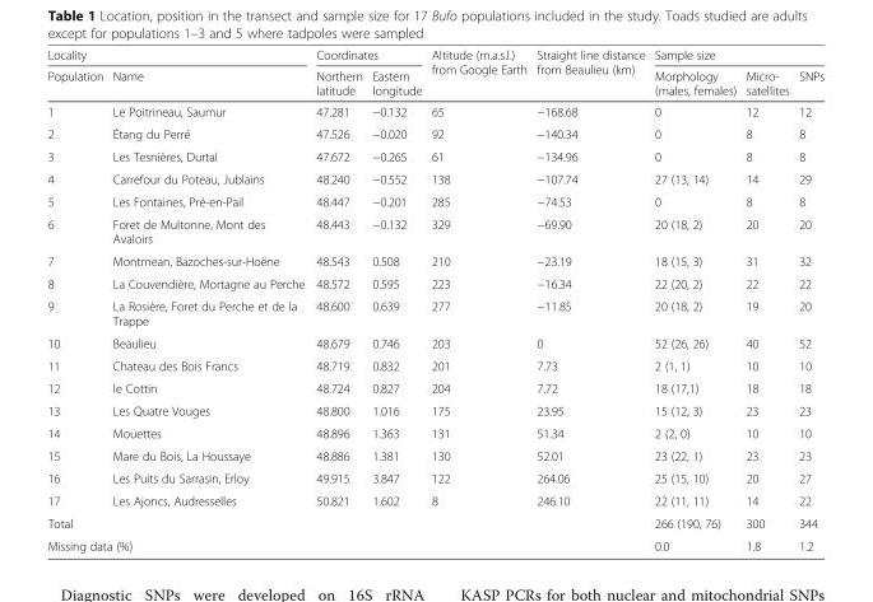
<table><thead><tr><td colspan="2">Locality</td><td colspan="2">Coordinates</td><td rowspan="2">Altitude (m.a.s.l.) from Google Earth</td><td rowspan="2">Straight line distance from Beaulieu (km)</td><td colspan="3">Sample size</td></tr><tr><td>Population</td><td>Name</td><td>Northern latitude</td><td>Eastern longitude</td><td>Morphology (males, females)</td><td>Micro- satellites</td><td>SNPs</td></tr></thead><tbody><tr><td>1</td><td>Le Poitrineau, Saumur</td><td>47.281</td><td>−0.132</td><td>65</td><td>−168.68</td><td>0</td><td>12</td><td>12</td></tr><tr><td>2</td><td>Étang du Perré</td><td>47.526</td><td>−0.020</td><td>92</td><td>−140.34</td><td>0</td><td>8</td><td>8</td></tr><tr><td>3</td><td>Les Tesnières, Durtal</td><td>47.672</td><td>−0.265</td><td>61</td><td>−134.96</td><td>0</td><td>8</td><td>8</td></tr><tr><td>4</td><td>Carrefour du Poteau, Jublains</td><td>48.240</td><td>−0.552</td><td>138</td><td>−107.74</td><td>27 (13, 14)</td><td>14</td><td>29</td></tr><tr><td>5</td><td>Les Fontaines, Pré-en-Pail</td><td>48.447</td><td>−0.201</td><td>285</td><td>−74.53</td><td>0</td><td>8</td><td>8</td></tr><tr><td>6</td><td>Foret de Multonne, Mont des Avaloirs</td><td>48.443</td><td>−0.132</td><td>329</td><td>−69.90</td><td>20 (18, 2)</td><td>20</td><td>20</td></tr><tr><td>7</td><td>Montmean, Bazoches-sur-Hoëne</td><td>48.543</td><td>0.508</td><td>210</td><td>−23.19</td><td>18 (15, 3)</td><td>31</td><td>32</td></tr><tr><td>8</td><td>La Couvendière, Mortagne au Perche</td><td>48.572</td><td>0.595</td><td>223</td><td>−16.34</td><td>22 (20, 2)</td><td>22</td><td>22</td></tr><tr><td>9</td><td>La Rosière, Foret du Perche et de la Trappe</td><td>48.600</td><td>0.639</td><td>277</td><td>−11.85</td><td>20 (18, 2)</td><td>19</td><td>20</td></tr><tr><td>10</td><td>Beaulieu</td><td>48.679</td><td>0.746</td><td>203</td><td>0</td><td>52 (26, 26)</td><td>40</td><td>52</td></tr><tr><td>11</td><td>Chateau des Bois Francs</td><td>48.719</td><td>0.832</td><td>201</td><td>7.73</td><td>2 (1, 1)</td><td>10</td><td>10</td></tr><tr><td>12</td><td>le Cottin</td><td>48.724</td><td>0.827</td><td>204</td><td>7.72</td><td>18 (17,1)</td><td>18</td><td>18</td></tr><tr><td>13</td><td>Les Quatre Vouges</td><td>48.800</td><td>1.016</td><td>175</td><td>23.95</td><td>15 (12, 3)</td><td>23</td><td>23</td></tr><tr><td>14</td><td>Mouettes</td><td>48.896</td><td>1.363</td><td>131</td><td>51.34</td><td>2 (2, 0)</td><td>10</td><td>10</td></tr><tr><td>15</td><td>Mare du Bois, La Houssaye</td><td>48.886</td><td>1.381</td><td>130</td><td>52.01</td><td>23 (22, 1)</td><td>23</td><td>23</td></tr><tr><td>16</td><td>Les Puits du Sarrasin, Erloy</td><td>49.915</td><td>3.847</td><td>122</td><td>264.06</td><td>25 (15, 10)</td><td>20</td><td>27</td></tr><tr><td>17</td><td>Les Ajoncs, Audresselles</td><td>50.821</td><td>1.602</td><td>8</td><td>246.10</td><td>22 (11, 11)</td><td>14</td><td>22</td></tr><tr><td>Total</td><td></td><td></td><td></td><td></td><td></td><td>266 (190, 76)</td><td>300</td><td>344</td></tr><tr><td colspan="2">Missing data (%)</td><td></td><td></td><td></td><td></td><td>0.0</td><td>1.8</td><td>1.2</td></tr></tbody></table>